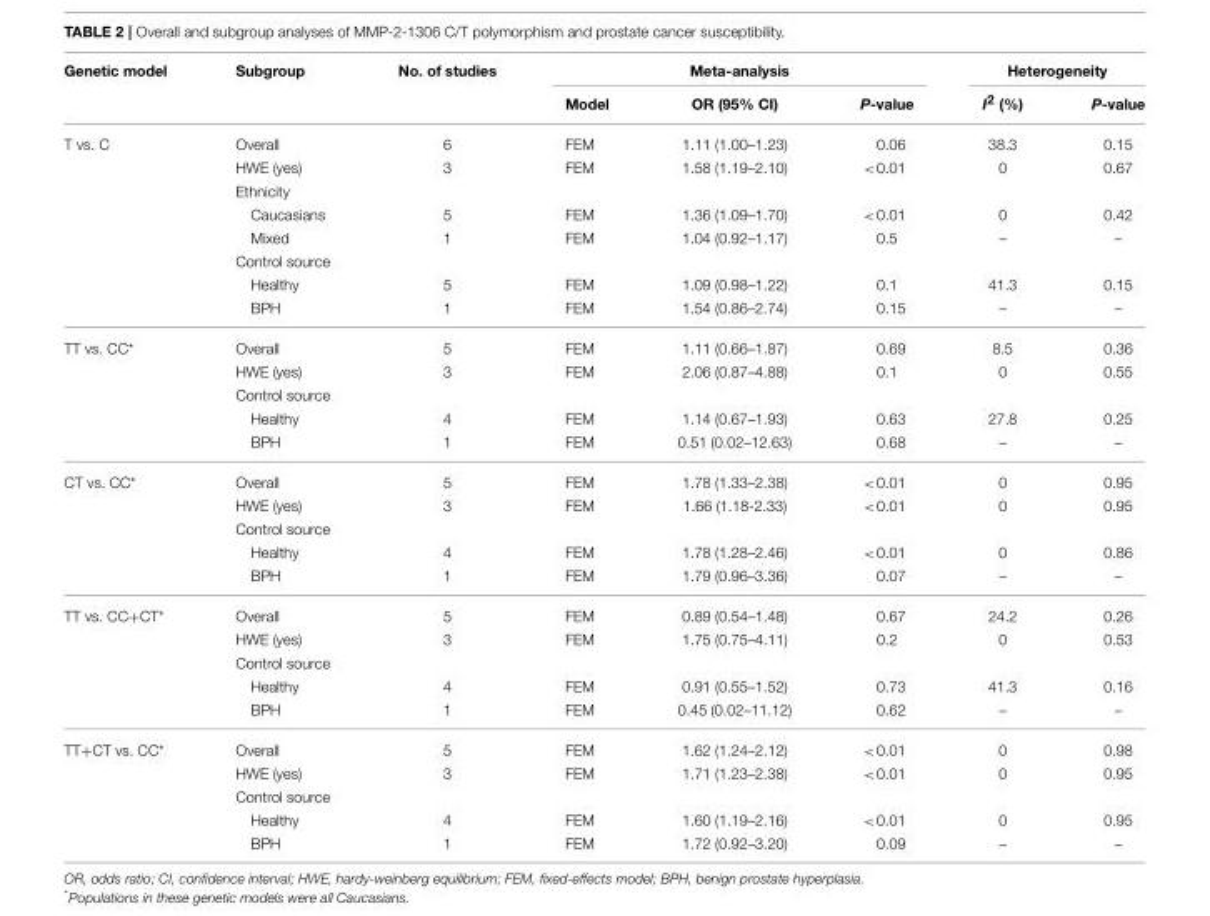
<table><thead><tr><td rowspan="2">Genetic model</td><td rowspan="2">Subgroup</td><td rowspan="2">No. of studies</td><td colspan="3">Meta-analysis</td><td colspan="2">Heterogeneity</td></tr><tr><td>Model</td><td>OR (95% CI)</td><td>P-value</td><td>I<sup>2</sup> (%)</td><td>P-value</td></tr></thead><tbody><tr><td rowspan="8">T vs. C</td><td>Overall</td><td>6</td><td>FEM</td><td>1.11 (1.00–1.23)</td><td>0.06</td><td>38.3</td><td>0.15</td></tr><tr><td>HWE (yes)</td><td>3</td><td>FEM</td><td>1.58 (1.19–2.10)</td><td>&lt;0.01</td><td>0</td><td>0.67</td></tr><tr><td>Ethnicity</td><td></td><td></td><td></td><td></td><td></td><td></td></tr><tr><td>Caucasians</td><td>5</td><td>FEM</td><td>1.36 (1.09–1.70)</td><td>&lt;0.01</td><td>0</td><td>0.42</td></tr><tr><td>Mixed</td><td>1</td><td>FEM</td><td>1.04 (0.92–1.17)</td><td>0.5</td><td>–</td><td>–</td></tr><tr><td>Control source</td><td></td><td></td><td></td><td></td><td></td><td></td></tr><tr><td>Healthy</td><td>5</td><td>FEM</td><td>1.09 (0.98–1.22)</td><td>0.1</td><td>41.3</td><td>0.15</td></tr><tr><td>BPH</td><td>1</td><td>FEM</td><td>1.54 (0.86–2.74)</td><td>0.15</td><td>–</td><td>–</td></tr><tr><td rowspan="5">TT vs. CC*</td><td>Overall</td><td>5</td><td>FEM</td><td>1.11 (0.66–1.87)</td><td>0.69</td><td>8.5</td><td>0.36</td></tr><tr><td>HWE (yes)</td><td>3</td><td>FEM</td><td>2.06 (0.87–4.88)</td><td>0.1</td><td>0</td><td>0.55</td></tr><tr><td>Control source</td><td></td><td></td><td></td><td></td><td></td><td></td></tr><tr><td>Healthy</td><td>4</td><td>FEM</td><td>1.14 (0.67–1.93)</td><td>0.63</td><td>27.8</td><td>0.25</td></tr><tr><td>BPH</td><td>1</td><td>FEM</td><td>0.51 (0.02–12.63)</td><td>0.68</td><td>–</td><td>–</td></tr><tr><td rowspan="5">CT vs. CC*</td><td>Overall</td><td>5</td><td>FEM</td><td>1.78 (1.33–2.38)</td><td>&lt;0.01</td><td>0</td><td>0.95</td></tr><tr><td>HWE (yes)</td><td>3</td><td>FEM</td><td>1.66 (1.18-2.33)</td><td>&lt;0.01</td><td>0</td><td>0.95</td></tr><tr><td>Control source</td><td></td><td></td><td></td><td></td><td></td><td></td></tr><tr><td>Healthy</td><td>4</td><td>FEM</td><td>1.78 (1.28–2.46)</td><td>&lt;0.01</td><td>0</td><td>0.86</td></tr><tr><td>BPH</td><td>1</td><td>FEM</td><td>1.79 (0.96–3.36)</td><td>0.07</td><td>–</td><td>–</td></tr><tr><td rowspan="5">TT vs. CC+CT*</td><td>Overall</td><td>5</td><td>FEM</td><td>0.89 (0.54–1.48)</td><td>0.67</td><td>24.2</td><td>0.26</td></tr><tr><td>HWE (yes)</td><td>3</td><td>FEM</td><td>1.75 (0.75–4.11)</td><td>0.2</td><td>0</td><td>0.53</td></tr><tr><td>Control source</td><td></td><td></td><td></td><td></td><td></td><td></td></tr><tr><td>Healthy</td><td>4</td><td>FEM</td><td>0.91 (0.55–1.52)</td><td>0.73</td><td>41.3</td><td>0.16</td></tr><tr><td>BPH</td><td>1</td><td>FEM</td><td>0.45 (0.02–11.12)</td><td>0.62</td><td>–</td><td>–</td></tr><tr><td rowspan="5">TT+CT vs. CC*</td><td>Overall</td><td>5</td><td>FEM</td><td>1.62 (1.24–2.12)</td><td>&lt;0.01</td><td>0</td><td>0.98</td></tr><tr><td>HWE (yes)</td><td>3</td><td>FEM</td><td>1.71 (1.23–2.38)</td><td>&lt;0.01</td><td>0</td><td>0.95</td></tr><tr><td>Control source</td><td></td><td></td><td></td><td></td><td></td><td></td></tr><tr><td>Healthy</td><td>4</td><td>FEM</td><td>1.60 (1.19–2.16)</td><td>&lt;0.01</td><td>0</td><td>0.95</td></tr><tr><td>BPH</td><td>1</td><td>FEM</td><td>1.72 (0.92–3.20)</td><td>0.09</td><td>–</td><td>–</td></tr></tbody></table>